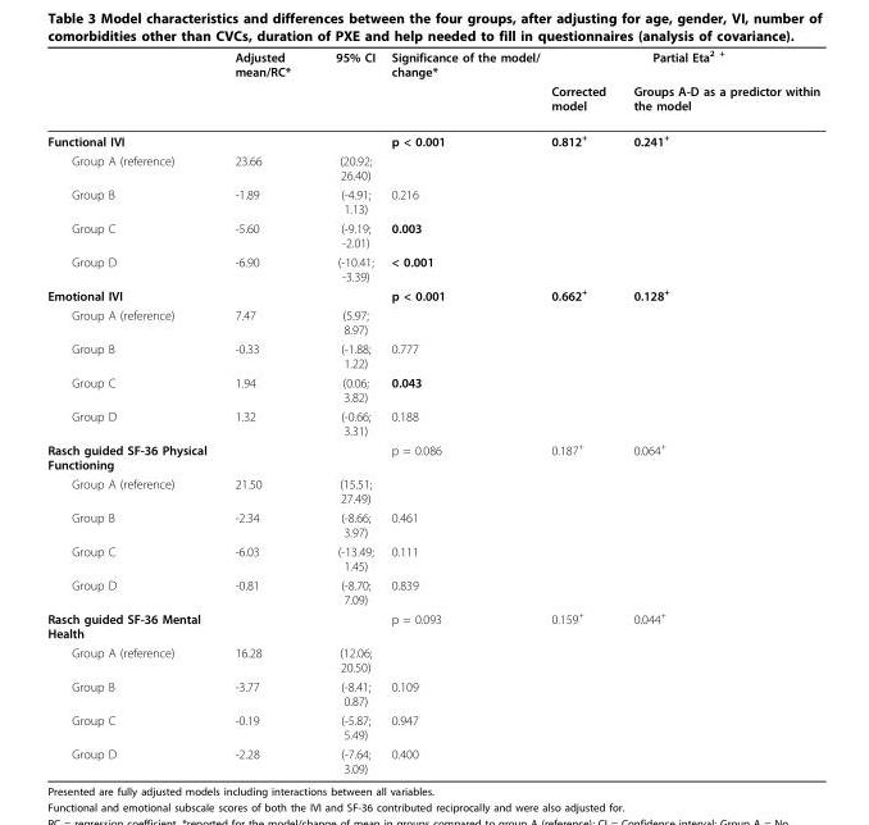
<table><thead><tr><td rowspan="2"></td><td rowspan="2">Adjusted mean/RC*</td><td rowspan="2">95% CI</td><td rowspan="2">Significance of the model/ change*</td><td colspan="2">Partial Eta<sup>2 +</sup></td></tr><tr><td>Corrected model</td><td>Groups A-D as a predictor within the model</td></tr></thead><tbody><tr><td>Functional IVI</td><td></td><td></td><td>p &lt; 0.001</td><td>0.812<sup>+</sup></td><td>0.241<sup>+</sup></td></tr><tr><td>Group A (reference)</td><td>23.66</td><td>(20.92; 26.40)</td><td></td><td></td><td></td></tr><tr><td>Group B</td><td>-1.89</td><td>(-4.91; 1.13)</td><td>0.216</td><td></td><td></td></tr><tr><td>Group C</td><td>-5.60</td><td>(-9.19; -2.01)</td><td>0.003</td><td></td><td></td></tr><tr><td>Group D</td><td>-6.90</td><td>(-10.41; -3.39)</td><td>&lt; 0.001</td><td></td><td></td></tr><tr><td>Emotional IVI</td><td></td><td></td><td>p &lt; 0.001</td><td>0.662<sup>+</sup></td><td>0.128<sup>+</sup></td></tr><tr><td>Group A (reference)</td><td>7.47</td><td>(5.97; 8.97)</td><td></td><td></td><td></td></tr><tr><td>Group B</td><td>-0.33</td><td>(-1.88; 1.22)</td><td>0.777</td><td></td><td></td></tr><tr><td>Group C</td><td>1.94</td><td>(0.06; 3.82)</td><td>0.043</td><td></td><td></td></tr><tr><td>Group D</td><td>1.32</td><td>(-0.66; 3.31)</td><td>0.188</td><td></td><td></td></tr><tr><td>Rasch guided SF-36 Physical Functioning</td><td></td><td></td><td>p = 0.086</td><td>0.187<sup>+</sup></td><td>0.064<sup>+</sup></td></tr><tr><td>Group A (reference)</td><td>21.50</td><td>(15.51; 27.49)</td><td></td><td></td><td></td></tr><tr><td>Group B</td><td>-2.34</td><td>(-8.66; 3.97)</td><td>0.461</td><td></td><td></td></tr><tr><td>Group C</td><td>-6.03</td><td>(-13.49; 1.45)</td><td>0.111</td><td></td><td></td></tr><tr><td>Group D</td><td>-0.81</td><td>(-8.70; 7.09)</td><td>0.839</td><td></td><td></td></tr><tr><td>Rasch guided SF-36 Mental Health</td><td></td><td></td><td>p = 0.093</td><td>0.159<sup>+</sup></td><td>0.044<sup>+</sup></td></tr><tr><td>Group A (reference)</td><td>16.28</td><td>(12.06; 20.50)</td><td></td><td></td><td></td></tr><tr><td>Group B</td><td>-3.77</td><td>(-8.41; 0.87)</td><td>0.109</td><td></td><td></td></tr><tr><td>Group C</td><td>-0.19</td><td>(-5.87; 5.49)</td><td>0.947</td><td></td><td></td></tr><tr><td>Group D</td><td>-2.28</td><td>(-7.64; 3.09)</td><td>0.400</td><td></td><td></td></tr></tbody></table>